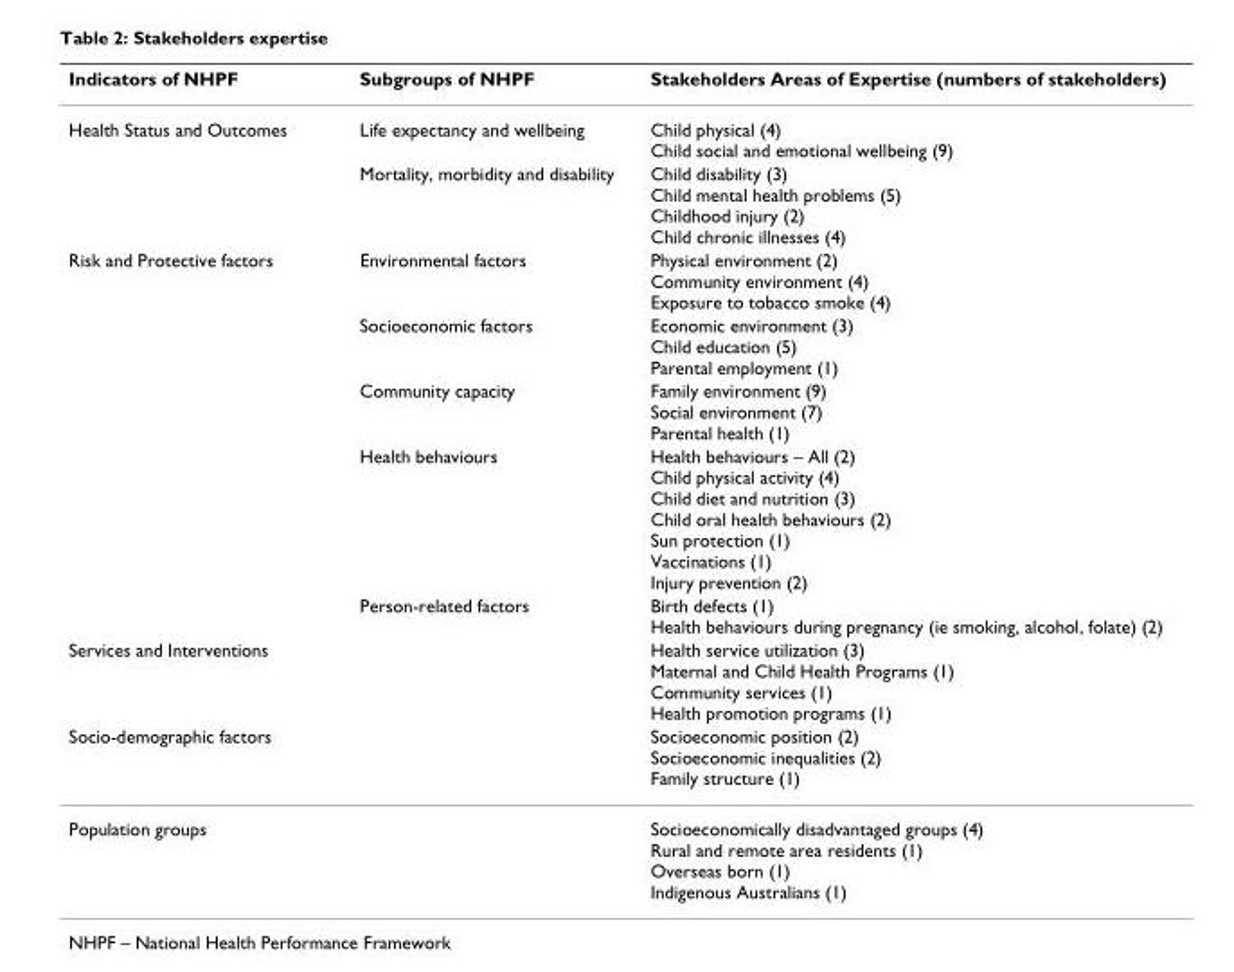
<table><thead><tr><td>Indicators of NHPF</td><td>Subgroups of NHPF</td><td>Stakeholders Areas of Expertise (numbers of stakeholders)</td></tr></thead><tbody><tr><td rowspan="2">Health Status and Outcomes</td><td>Life expectancy and wellbeing</td><td>Child physical (4) Child social and emotional wellbeing (9)</td></tr><tr><td>Mortality, morbidity and disability</td><td>Child disability (3) Child mental health problems (5) Childhood injury (2) Child chronic illnesses (4)</td></tr><tr><td rowspan="5">Risk and Protective factors</td><td>Environmental factors</td><td>Physical environment (2) Community environment (4) Exposure to tobacco smoke (4)</td></tr><tr><td>Socioeconomic factors</td><td>Economic environment (3) Child education (5) Parental employment (1)</td></tr><tr><td>Community capacity</td><td>Family environment (9) Social environment (7) Parental health (1)</td></tr><tr><td>Health behaviours</td><td>Health behaviours – All (2) Child physical activity (4) Child diet and nutrition (3) Child oral health behaviours (2) Sun protection (1) Vaccinations (1) Injury prevention (2)</td></tr><tr><td>Person-related factors</td><td>Birth defects (1) Health behaviours during pregnancy (ie smoking, alcohol, folate) (2)</td></tr><tr><td>Services and Interventions</td><td></td><td>Health service utilization (3) Maternal and Child Health Programs (1) Community services (1) Health promotion programs (1)</td></tr><tr><td>Socio-demographic factors</td><td></td><td>Socioeconomic position (2) Socioeconomic inequalities (2) Family structure (1)</td></tr><tr><td>Population groups</td><td></td><td>Socioeconomically disadvantaged groups (4) Rural and remote area residents (1) Overseas born (1) Indigenous Australians (1)</td></tr></tbody></table>